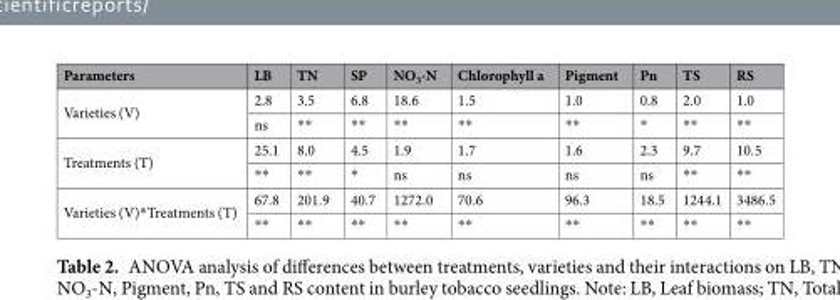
<table><thead><tr><td>Parameters</td><td>LB</td><td>TN</td><td>SP</td><td>NO<sub>3</sub>-N</td><td>Chlorophyll a</td><td>Pigment</td><td>Pn</td><td>TS</td><td>RS</td></tr></thead><tbody><tr><td rowspan="2">Varieties (V)</td><td>2.8</td><td>3.5</td><td>6.8</td><td>18.6</td><td>1.5</td><td>1.0</td><td>0.8</td><td>2.0</td><td>1.0</td></tr><tr><td>ns</td><td>**</td><td>**</td><td>**</td><td>**</td><td>**</td><td>*</td><td>**</td><td>**</td></tr><tr><td rowspan="2">Treatments (T)</td><td>25.1</td><td>8.0</td><td>4.5</td><td>1.9</td><td>1.7</td><td>1.6</td><td>2.3</td><td>9.7</td><td>10.5</td></tr><tr><td>**</td><td>**</td><td>*</td><td>ns</td><td>ns</td><td>ns</td><td>ns</td><td>**</td><td>**</td></tr><tr><td rowspan="2">Varieties (V)*Treatments (T)</td><td>67.8</td><td>201.9</td><td>40.7</td><td>1272.0</td><td>70.6</td><td>96.3</td><td>18.5</td><td>1244.1</td><td>3486.5</td></tr><tr><td>**</td><td>**</td><td>**</td><td>**</td><td>**</td><td>**</td><td>**</td><td>**</td><td>**</td></tr></tbody></table>